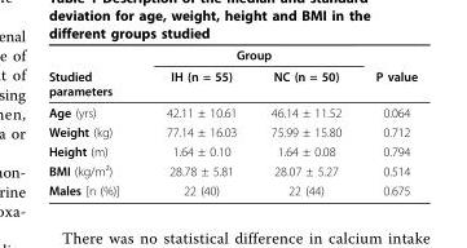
<table><thead><tr><td rowspan="2">Studied parameters</td><td colspan="2">Group</td><td rowspan="2">P value</td></tr><tr><td>IH (n = 55)</td><td>NC (n = 50)</td></tr></thead><tbody><tr><td>Age (yrs)</td><td>42.11 ± 10.61</td><td>46.14 ± 11.52</td><td>0.064</td></tr><tr><td>Weight (kg)</td><td>77.14 ± 16.03</td><td>75.99 ± 15.80</td><td>0.712</td></tr><tr><td>Height (m)</td><td>1.64 ± 0.10</td><td>1.64 ± 0.08</td><td>0.794</td></tr><tr><td>BMI (kg/m²)</td><td>28.78 ± 5.81</td><td>28.07 ± 5.27</td><td>0.514</td></tr><tr><td>Males [n (%)]</td><td>22 (40)</td><td>22 (44)</td><td>0.675</td></tr></tbody></table>